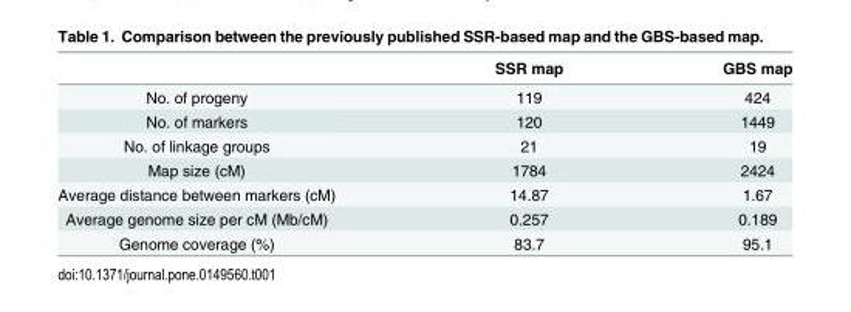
<table><thead><tr><td></td><td>SSR map</td><td>GBS map</td></tr></thead><tbody><tr><td>No. of progeny</td><td>119</td><td>424</td></tr><tr><td>No. of markers</td><td>120</td><td>1449</td></tr><tr><td>No. of linkage groups</td><td>21</td><td>19</td></tr><tr><td>Map size (cM)</td><td>1784</td><td>2424</td></tr><tr><td>Average distance between markers (cM)</td><td>14.87</td><td>1.67</td></tr><tr><td>Average genome size per cM (Mb/cM)</td><td>0.257</td><td>0.189</td></tr><tr><td>Genome coverage (%)</td><td>83.7</td><td>95.1</td></tr></tbody></table>